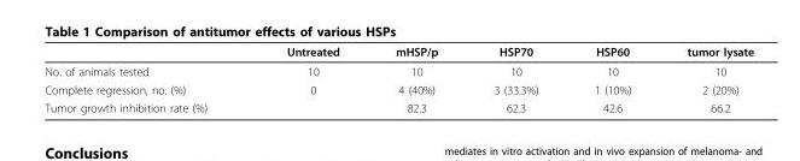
<table><thead><tr><td></td><td>Untreated</td><td>mHSP/p</td><td>HSP70</td><td>HSP60</td><td>tumor lysate</td></tr></thead><tbody><tr><td>No. of animals tested</td><td>10</td><td>10</td><td>10</td><td>10</td><td>10</td></tr><tr><td>Complete regression, no. (%)</td><td>0</td><td>4 (40%)</td><td>3 (33.3%)</td><td>1 (10%)</td><td>2 (20%)</td></tr><tr><td>Tumor growth inhibition rate (%)</td><td></td><td>82.3</td><td>62.3</td><td>42.6</td><td>66.2</td></tr></tbody></table>